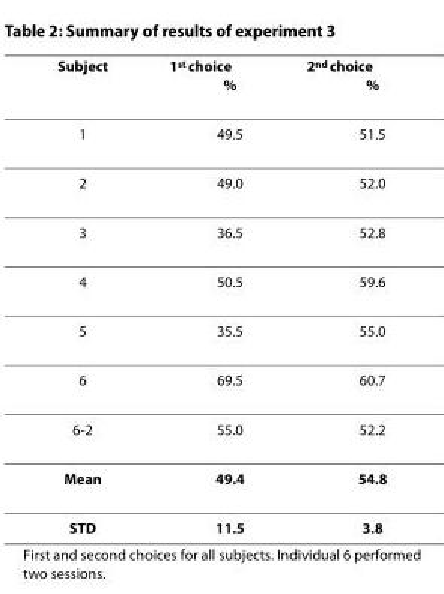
<table><thead><tr><td>Subject</td><td>1<sup>st</sup> choice %</td><td>2<sup>nd</sup> choice %</td></tr></thead><tbody><tr><td>1</td><td>49.5</td><td>51.5</td></tr><tr><td>2</td><td>49.0</td><td>52.0</td></tr><tr><td>3</td><td>36.5</td><td>52.8</td></tr><tr><td>4</td><td>50.5</td><td>59.6</td></tr><tr><td>5</td><td>35.5</td><td>55.0</td></tr><tr><td>6</td><td>69.5</td><td>60.7</td></tr><tr><td>6-2</td><td>55.0</td><td>52.2</td></tr><tr><td>Mean</td><td>49.4</td><td>54.8</td></tr><tr><td>STD</td><td>11.5</td><td>3.8</td></tr></tbody></table>